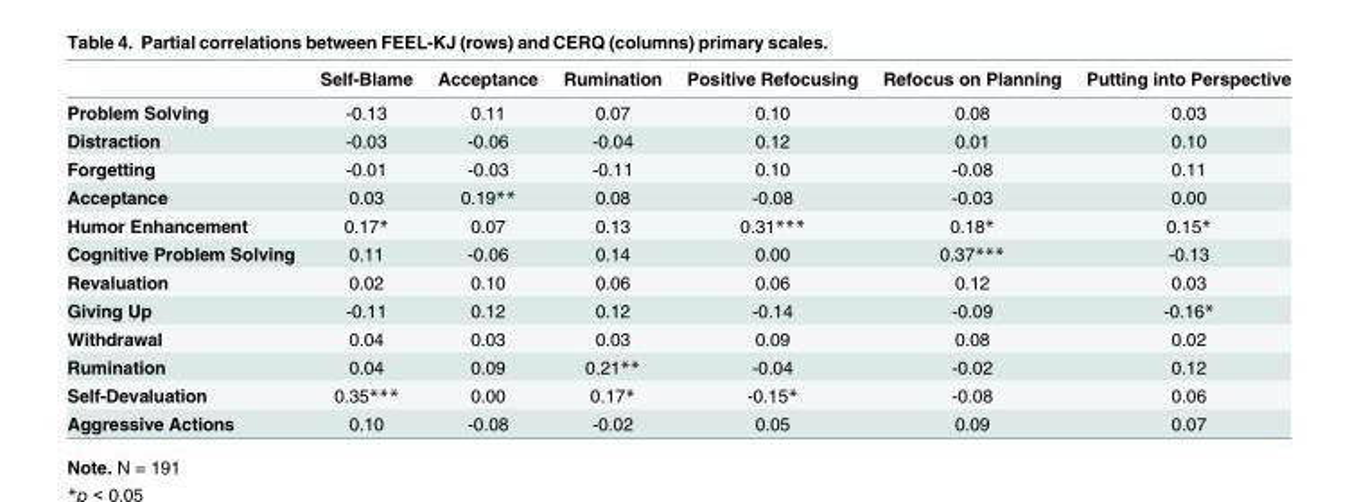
<table><thead><tr><td></td><td>Self-Blame</td><td>Acceptance</td><td>Rumination</td><td>Positive Refocusing</td><td>Refocus on Planning</td><td>Putting into Perspective</td></tr></thead><tbody><tr><td>Problem Solving</td><td>-0.13</td><td>0.11</td><td>0.07</td><td>0.10</td><td>0.08</td><td>0.03</td></tr><tr><td>Distraction</td><td>-0.03</td><td>-0.06</td><td>-0.04</td><td>0.12</td><td>0.01</td><td>0.10</td></tr><tr><td>Forgetting</td><td>-0.01</td><td>-0.03</td><td>-0.11</td><td>0.10</td><td>-0.08</td><td>0.11</td></tr><tr><td>Acceptance</td><td>0.03</td><td>0.19**</td><td>0.08</td><td>-0.08</td><td>-0.03</td><td>0.00</td></tr><tr><td>Humor Enhancement</td><td>0.17*</td><td>0.07</td><td>0.13</td><td>0.31***</td><td>0.18*</td><td>0.15*</td></tr><tr><td>Cognitive Problem Solving</td><td>0.11</td><td>-0.06</td><td>0.14</td><td>0.00</td><td>0.37***</td><td>-0.13</td></tr><tr><td>Revaluation</td><td>0.02</td><td>0.10</td><td>0.06</td><td>0.06</td><td>0.12</td><td>0.03</td></tr><tr><td>Giving Up</td><td>-0.11</td><td>0.12</td><td>0.12</td><td>-0.14</td><td>-0.09</td><td>-0.16*</td></tr><tr><td>Withdrawal</td><td>0.04</td><td>0.03</td><td>0.03</td><td>0.09</td><td>0.08</td><td>0.02</td></tr><tr><td>Rumination</td><td>0.04</td><td>0.09</td><td>0.21**</td><td>-0.04</td><td>-0.02</td><td>0.12</td></tr><tr><td>Self-Devaluation</td><td>0.35***</td><td>0.00</td><td>0.17*</td><td>-0.15*</td><td>-0.08</td><td>0.06</td></tr><tr><td>Aggressive Actions</td><td>0.10</td><td>-0.08</td><td>-0.02</td><td>0.05</td><td>0.09</td><td>0.07</td></tr></tbody></table>